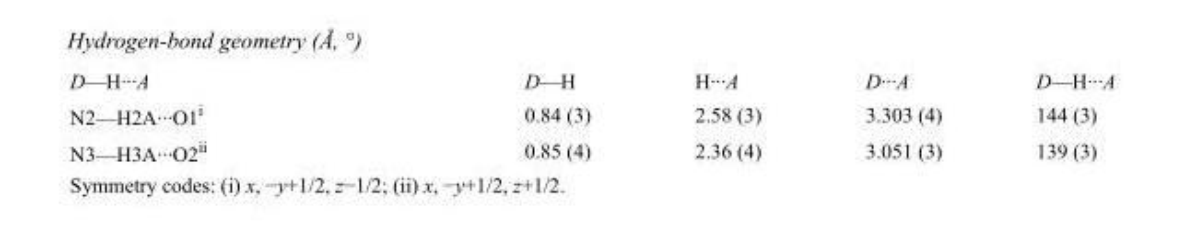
<table><tbody><tr><td>D—H···A</td><td>D—H</td><td>H···A</td><td>D···A</td><td>D—H···A</td></tr><tr><td>N2—H2A···O1<sup>i</sup></td><td>0.84 (3)</td><td>2.58 (3)</td><td>3.303 (4)</td><td>144 (3)</td></tr><tr><td>N3—H3A···O2<sup>ii</sup></td><td>0.85 (4)</td><td>2.36 (4)</td><td>3.051 (3)</td><td>139 (3)</td></tr></tbody></table>